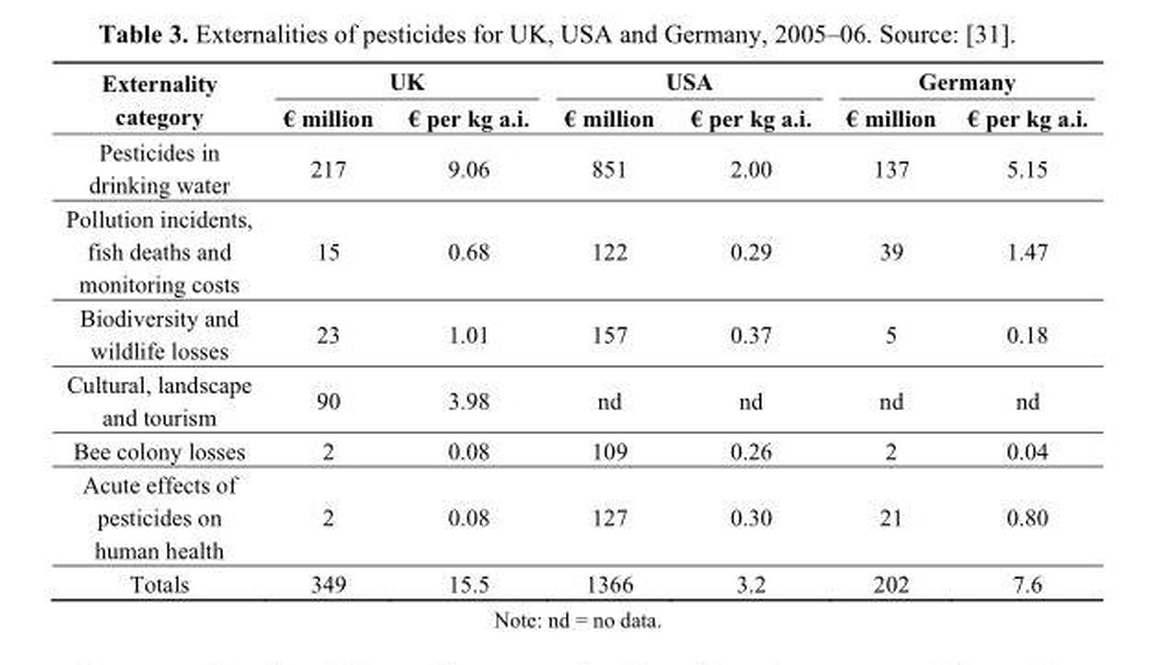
<table><thead><tr><td rowspan="2">Externality category</td><td colspan="2">UK</td><td colspan="2">USA</td><td colspan="2">Germany</td></tr><tr><td>€ million</td><td>€ per kg a.i.</td><td>€ million</td><td>€ per kg a.i.</td><td>€ million</td><td>€ per kg a.i.</td></tr></thead><tbody><tr><td>Pesticides in drinking water</td><td>217</td><td>9.06</td><td>851</td><td>2.00</td><td>137</td><td>5.15</td></tr><tr><td>Pollution incidents, fish deaths and monitoring costs</td><td>15</td><td>0.68</td><td>122</td><td>0.29</td><td>39</td><td>1.47</td></tr><tr><td>Biodiversity and wildlife losses</td><td>23</td><td>1.01</td><td>157</td><td>0.37</td><td>5</td><td>0.18</td></tr><tr><td>Cultural, landscape and tourism</td><td>90</td><td>3.98</td><td>nd</td><td>nd</td><td>nd</td><td>nd</td></tr><tr><td>Bee colony losses</td><td>2</td><td>0.08</td><td>109</td><td>0.26</td><td>2</td><td>0.04</td></tr><tr><td>Acute effects of pesticides on human health</td><td>2</td><td>0.08</td><td>127</td><td>0.30</td><td>21</td><td>0.80</td></tr><tr><td>Totals</td><td>349</td><td>15.5</td><td>1366</td><td>3.2</td><td>202</td><td>7.6</td></tr></tbody></table>